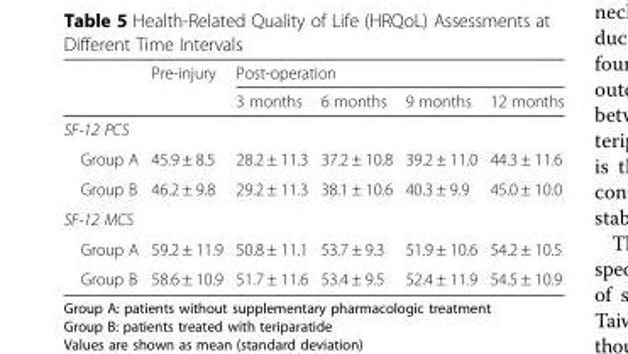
<table><thead><tr><td rowspan="2"></td><td rowspan="2">Pre-injury</td><td colspan="4">Post-operation</td></tr><tr><td>3 months</td><td>6 months</td><td>9 months</td><td>12 months</td></tr></thead><tbody><tr><td colspan="6">SF-12 PCS</td></tr><tr><td>Group A</td><td>45.9 ± 8.5</td><td>28.2 ± 11.3</td><td>37.2 ± 10.8</td><td>39.2 ± 11.0</td><td>44.3 ± 11.6</td></tr><tr><td>Group B</td><td>46.2 ± 9.8</td><td>29.2 ± 11.3</td><td>38.1 ± 10.6</td><td>40.3 ± 9.9</td><td>45.0 ± 10.0</td></tr><tr><td colspan="6">SF-12 MCS</td></tr><tr><td>Group A</td><td>59.2 ± 11.9</td><td>50.8 ± 11.1</td><td>53.7 ± 9.3</td><td>51.9 ± 10.6</td><td>54.2 ± 10.5</td></tr><tr><td>Group B</td><td>58.6 ± 10.9</td><td>51.7 ± 11.6</td><td>53.4 ± 9.5</td><td>52.4 ± 11.9</td><td>54.5 ± 10.9</td></tr></tbody></table>